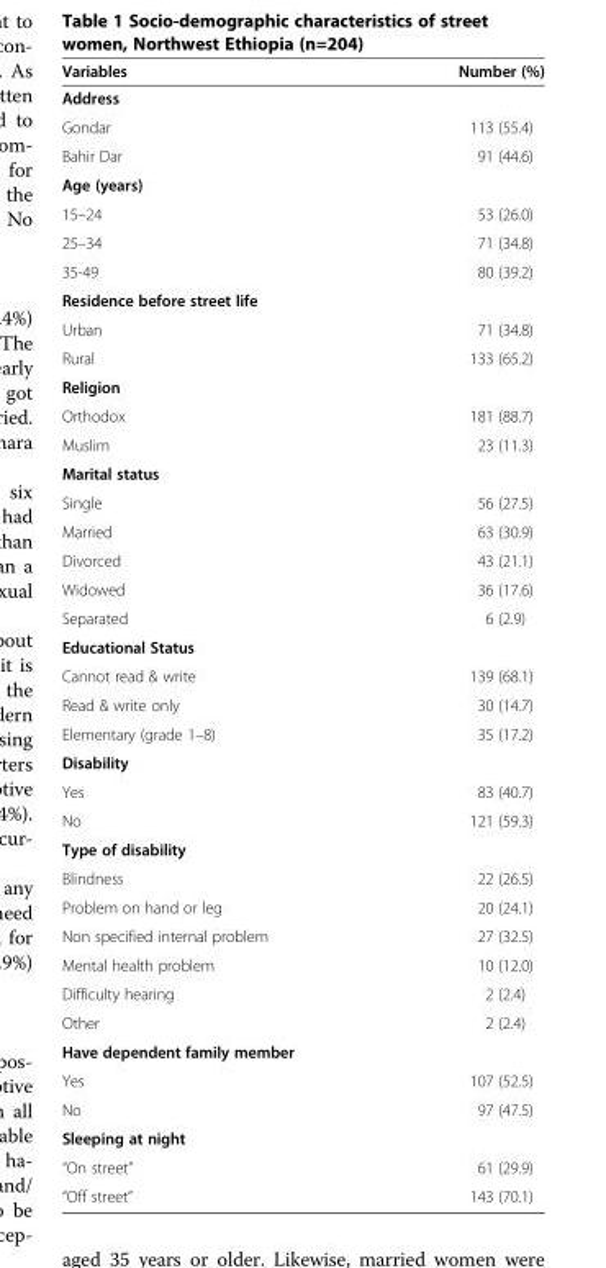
<table><thead><tr><td>Variables</td><td>Number (%)</td></tr></thead><tbody><tr><td colspan="2">Address</td></tr><tr><td>Gondar</td><td>113 (55.4)</td></tr><tr><td>Bahir Dar</td><td>91 (44.6)</td></tr><tr><td colspan="2">Age (years)</td></tr><tr><td>15–24</td><td>53 (26.0)</td></tr><tr><td>25–34</td><td>71 (34.8)</td></tr><tr><td>35-49</td><td>80 (39.2)</td></tr><tr><td colspan="2">Residence before street life</td></tr><tr><td>Urban</td><td>71 (34.8)</td></tr><tr><td>Rural</td><td>133 (65.2)</td></tr><tr><td colspan="2">Religion</td></tr><tr><td>Orthodox</td><td>181 (88.7)</td></tr><tr><td>Muslim</td><td>23 (11.3)</td></tr><tr><td colspan="2">Marital status</td></tr><tr><td>Single</td><td>56 (27.5)</td></tr><tr><td>Married</td><td>63 (30.9)</td></tr><tr><td>Divorced</td><td>43 (21.1)</td></tr><tr><td>Widowed</td><td>36 (17.6)</td></tr><tr><td>Separated</td><td>6 (2.9)</td></tr><tr><td colspan="2">Educational Status</td></tr><tr><td>Cannot read &amp; write</td><td>139 (68.1)</td></tr><tr><td>Read &amp; write only</td><td>30 (14.7)</td></tr><tr><td>Elementary (grade 1–8)</td><td>35 (17.2)</td></tr><tr><td colspan="2">Disability</td></tr><tr><td>Yes</td><td>83 (40.7)</td></tr><tr><td>No</td><td>121 (59.3)</td></tr><tr><td colspan="2">Type of disability</td></tr><tr><td>Blindness</td><td>22 (26.5)</td></tr><tr><td>Problem on hand or leg</td><td>20 (24.1)</td></tr><tr><td>Non specified internal problem</td><td>27 (32.5)</td></tr><tr><td>Mental health problem</td><td>10 (12.0)</td></tr><tr><td>Difficulty hearing</td><td>2 (2.4)</td></tr><tr><td>Other</td><td>2 (2.4)</td></tr><tr><td colspan="2">Have dependent family member</td></tr><tr><td>Yes</td><td>107 (52.5)</td></tr><tr><td>No</td><td>97 (47.5)</td></tr><tr><td colspan="2">Sleeping at night</td></tr><tr><td>“On street”</td><td>61 (29.9)</td></tr><tr><td>“Off street”</td><td>143 (70.1)</td></tr></tbody></table>